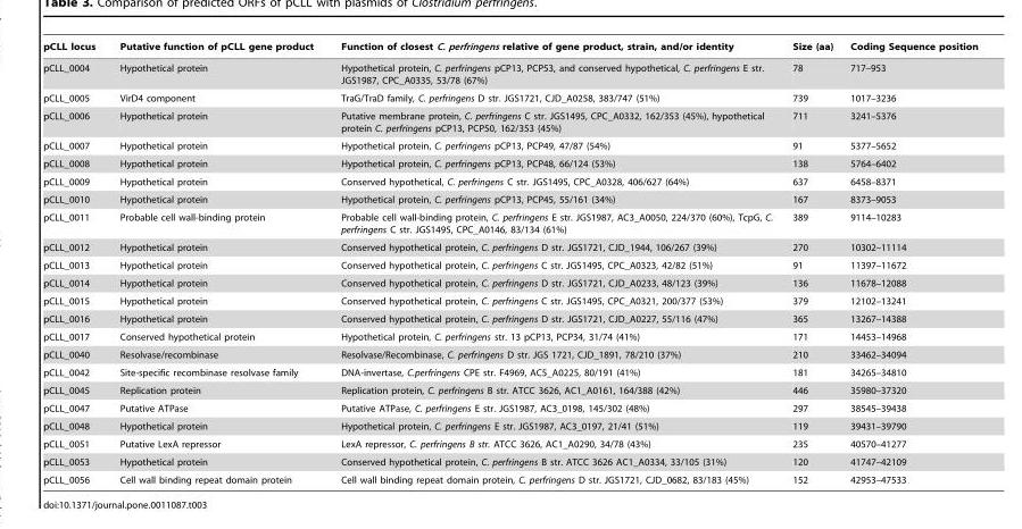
<table><thead><tr><td>pCLL locus</td><td>Putative function of pCLL gene product</td><td>Function of closest C. perfringens relative of gene product, strain, and/or identity</td><td>Size (aa)</td><td>Coding Sequence position</td></tr></thead><tbody><tr><td>pCLL_0004</td><td>Hypothetical protein</td><td>Hypothetical protein, C. perfringens pCP13, PCP53, and conserved hypothetical, C. perfringens E str. JGS1987, CPC_A0335, 53/78 (67%)</td><td>78</td><td>717–953</td></tr><tr><td>pCLL_0005</td><td>VirD4 component</td><td>TraG/TraD family, C. perfringens D str. JGS1721, CJD_A0258, 383/747 (51%)</td><td>739</td><td>1017–3236</td></tr><tr><td>pCLL_0006</td><td>Hypothetical protein</td><td>Putative membrane protein, C. perfringens C str. JGS1495, CPC_A0332, 162/353 (45%), hypothetical protein C. perfringens pCP13, PCP50, 162/353 (45%)</td><td>711</td><td>3241–5376</td></tr><tr><td>pCLL_0007</td><td>Hypothetical protein</td><td>Hypothetical protein, C. perfringens pCP13, PCP49, 47/87 (54%)</td><td>91</td><td>5377–5652</td></tr><tr><td>pCLL_0008</td><td>Hypothetical protein</td><td>Hypothetical protein, C. perfringens pCP13, PCP48, 66/124 (53%)</td><td>138</td><td>5764–6402</td></tr><tr><td>pCLL_0009</td><td>Hypothetical protein</td><td>Conserved hypothetical, C. perfringens C str. JGS1495, CPC_A0328, 406/627 (64%)</td><td>637</td><td>6458–8371</td></tr><tr><td>pCLL_0010</td><td>Hypothetical protein</td><td>Hypothetical protein, C. perfringens pCP13, PCP45, 55/161 (34%)</td><td>167</td><td>8373–9053</td></tr><tr><td>pCLL_0011</td><td>Probable cell wall-binding protein</td><td>Probable cell wall-binding protein, C. perfringens E str. JGS1987, AC3_A0050, 224/370 (60%), TcpG, C. perfringens C str. JGS1495, CPC_A0146, 83/134 (61%)</td><td>389</td><td>9114–10283</td></tr><tr><td>pCLL_0012</td><td>Hypothetical protein</td><td>Conserved hypothetical protein, C. perfringens D str. JGS1721, CJD_1944, 106/267 (39%)</td><td>270</td><td>10302–11114</td></tr><tr><td>pCLL_0013</td><td>Hypothetical protein</td><td>Conserved hypothetical protein, C. perfringens C str. JGS1495, CPC_A0323, 42/82 (51%)</td><td>91</td><td>11397–11672</td></tr><tr><td>pCLL_0014</td><td>Hypothetical protein</td><td>Conserved hypothetical protein, C. perfringens D str. JGS1721, CJD_A0233, 48/123 (39%)</td><td>136</td><td>11678–12088</td></tr><tr><td>pCLL_0015</td><td>Hypothetical protein</td><td>Conserved hypothetical protein, C. perfringens C str. JGS1495, CPC_A0321, 200/377 (53%)</td><td>379</td><td>12102–13241</td></tr><tr><td>pCLL_0016</td><td>Hypothetical protein</td><td>Conserved hypothetical protein, C. perfringens D str. JGS1721, CJD_A0227, 55/116 (47%)</td><td>365</td><td>13267–14388</td></tr><tr><td>pCLL_0017</td><td>Conserved hypothetical protein</td><td>Hypothetical protein, C. perfringens str. 13 pCP13, PCP34, 31/74 (41%)</td><td>171</td><td>14453–14968</td></tr><tr><td>pCLL_0040</td><td>Resolvase/recombinase</td><td>Resolvase/Recombinase, C. perfringens D str. JGS 1721, CJD_1891, 78/210 (37%)</td><td>210</td><td>33462–34094</td></tr><tr><td>pCLL_0042</td><td>Site-specific recombinase resolvase family</td><td>DNA-invertase, C.perfringens CPE str. F4969, AC5_A0225, 80/191 (41%)</td><td>181</td><td>34265–34810</td></tr><tr><td>pCLL_0045</td><td>Replication protein</td><td>Replication protein, C. perfringens B str. ATCC 3626, AC1_A0161, 164/388 (42%)</td><td>446</td><td>35980–37320</td></tr><tr><td>pCLL_0047</td><td>Putative ATPase</td><td>Putative ATPase, C. perfringens E str. JGS1987, AC3_0198, 145/302 (48%)</td><td>297</td><td>38545–39438</td></tr><tr><td>pCLL_0048</td><td>Hypothetical protein</td><td>Hypothetical protein, C. perfringens E str. JGS1987, AC3_0197, 21/41 (51%)</td><td>119</td><td>39431–39790</td></tr><tr><td>pCLL_0051</td><td>Putative LexA repressor</td><td>LexA repressor, C. perfringens B str. ATCC 3626, AC1_A0290, 34/78 (43%)</td><td>235</td><td>40570–41277</td></tr><tr><td>pCLL_0053</td><td>Hypothetical protein</td><td>Conserved hypothetical protein, C. perfringens B str. ATCC 3626 AC1_A0334, 33/105 (31%)</td><td>120</td><td>41747–42109</td></tr><tr><td>pCLL_0056</td><td>Cell wall binding repeat domain protein</td><td>Cell wall binding repeat domain protein, C. perfringens D str. JGS1721, CJD_0682, 83/183 (45%)</td><td>152</td><td>42953–47533</td></tr></tbody></table>